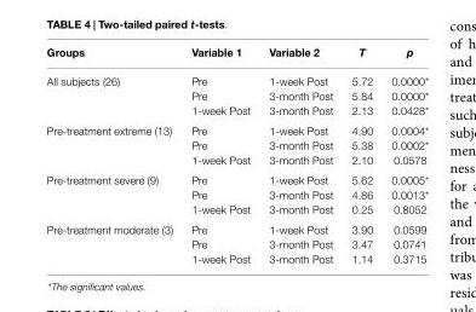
<table><thead><tr><td>Groups</td><td>Variable 1</td><td>Variable 2</td><td>T</td><td>p</td></tr></thead><tbody><tr><td rowspan="3">All subjects (26)</td><td>Pre</td><td>1-week Post</td><td>5.72</td><td>0.0000*</td></tr><tr><td>Pre</td><td>3-month Post</td><td>5.84</td><td>0.0000*</td></tr><tr><td>1-week Post</td><td>3-month Post</td><td>2.13</td><td>0.0428*</td></tr><tr><td rowspan="3">Pre-treatment extreme (13)</td><td>Pre</td><td>1-week Post</td><td>4.90</td><td>0.0004*</td></tr><tr><td>Pre</td><td>3-month Post</td><td>5.38</td><td>0.0002*</td></tr><tr><td>1-week Post</td><td>3-month Post</td><td>2.10</td><td>0.0578</td></tr><tr><td rowspan="3">Pre-treatment severe (9)</td><td>Pre</td><td>1-week Post</td><td>5.62</td><td>0.0005*</td></tr><tr><td>Pre</td><td>3-month Post</td><td>4.86</td><td>0.0013*</td></tr><tr><td>1-week Post</td><td>3-month Post</td><td>0.25</td><td>0.8052</td></tr><tr><td rowspan="3">Pre-treatment moderate (3)</td><td>Pre</td><td>1-week Post</td><td>3.90</td><td>0.0599</td></tr><tr><td>Pre</td><td>3-month Post</td><td>3.47</td><td>0.0741</td></tr><tr><td>1-week Post</td><td>3-month Post</td><td>1.14</td><td>0.3715</td></tr></tbody></table>